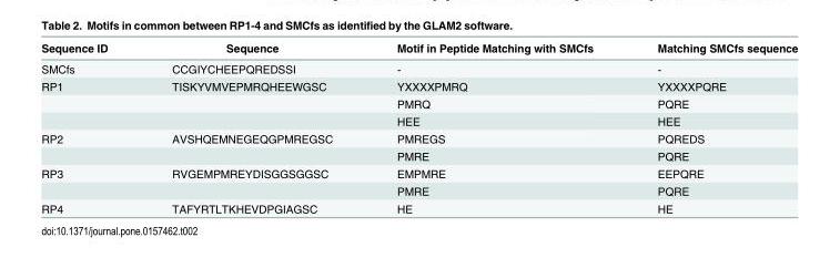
<table><thead><tr><td>Sequence ID</td><td>Sequence</td><td>Motif in Peptide Matching with SMCfs</td><td>Matching SMCfs sequence</td></tr></thead><tbody><tr><td>SMCfs</td><td>CCGIYCHEEPQREDSSI</td><td>-</td><td>-</td></tr><tr><td rowspan="3">RP1</td><td>TISKYVMVEPMRQHEEWGSC</td><td>YXXXXPMRQ</td><td>YXXXXPQRE</td></tr><tr><td></td><td>PMRQ</td><td>PQRE</td></tr><tr><td></td><td>HEE</td><td>HEE</td></tr><tr><td rowspan="2">RP2</td><td>AVSHQEMNEGEQGPMREGSC</td><td>PMREGS</td><td>PQREDS</td></tr><tr><td></td><td>PMRE</td><td>PQRE</td></tr><tr><td rowspan="2">RP3</td><td>RVGEMPMREYDISGGSGGSC</td><td>EMPMRE</td><td>EEPQRE</td></tr><tr><td></td><td>PMRE</td><td>PQRE</td></tr><tr><td>RP4</td><td>TAFYRTLTKHEVDPGIAGSC</td><td>HE</td><td>HE</td></tr></tbody></table>